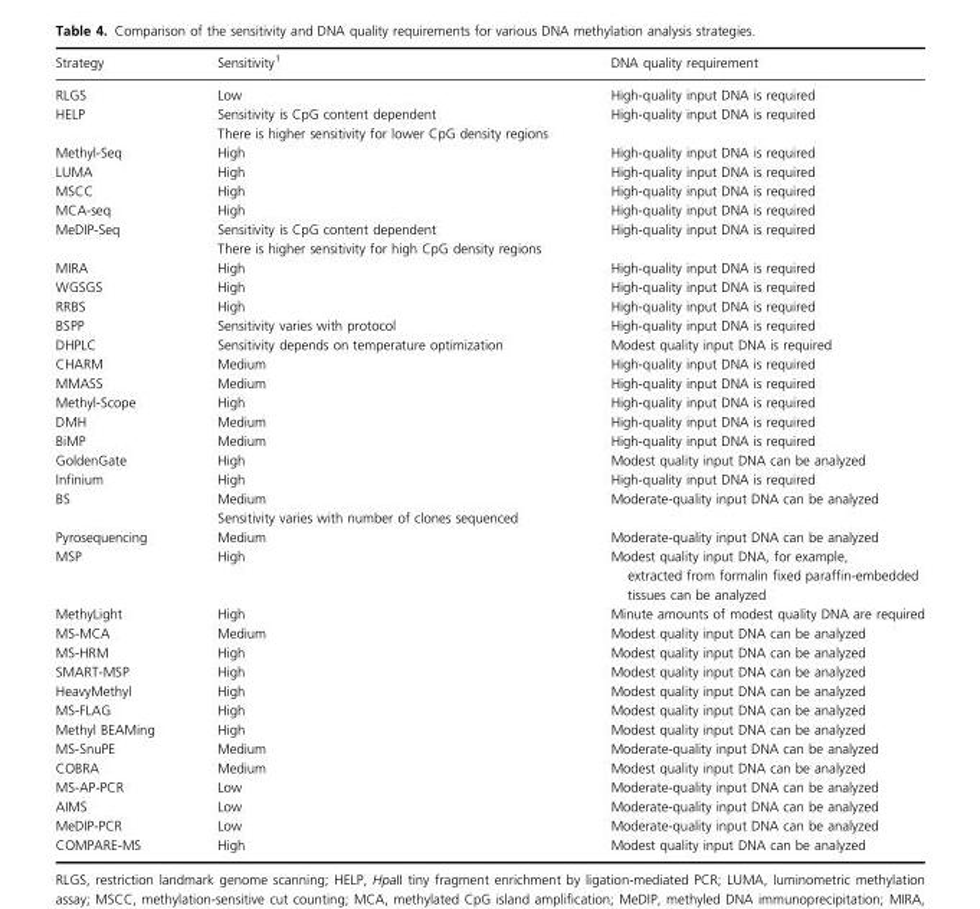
<table><thead><tr><td>Strategy</td><td>Sensitivity<sup>1</sup></td><td>DNA quality requirement</td></tr></thead><tbody><tr><td>RLGS</td><td>Low</td><td>High-quality input DNA is required</td></tr><tr><td rowspan="2">HELP</td><td>Sensitivity is CpG content dependent</td><td>High-quality input DNA is required</td></tr><tr><td>There is higher sensitivity for lower CpG density regions</td><td></td></tr><tr><td>Methyl-Seq</td><td>High</td><td>High-quality input DNA is required</td></tr><tr><td>LUMA</td><td>High</td><td>High-quality input DNA is required</td></tr><tr><td>MSCC</td><td>High</td><td>High-quality input DNA is required</td></tr><tr><td>MCA-seq</td><td>High</td><td>High-quality input DNA is required</td></tr><tr><td rowspan="2">MeDIP-Seq</td><td>Sensitivity is CpG content dependent</td><td>High-quality input DNA is required</td></tr><tr><td>There is higher sensitivity for high CpG density regions</td><td></td></tr><tr><td>MIRA</td><td>High</td><td>High-quality input DNA is required</td></tr><tr><td>WGSGS</td><td>High</td><td>High-quality input DNA is required</td></tr><tr><td>RRBS</td><td>High</td><td>High-quality input DNA is required</td></tr><tr><td>BSPP</td><td>Sensitivity varies with protocol</td><td>High-quality input DNA is required</td></tr><tr><td>DHPLC</td><td>Sensitivity depends on temperature optimization</td><td>Modest quality input DNA is required</td></tr><tr><td>CHARM</td><td>Medium</td><td>High-quality input DNA is required</td></tr><tr><td>MMASS</td><td>Medium</td><td>High-quality input DNA is required</td></tr><tr><td>Methyl-Scope</td><td>High</td><td>High-quality input DNA is required</td></tr><tr><td>DMH</td><td>Medium</td><td>High-quality input DNA is required</td></tr><tr><td>BiMP</td><td>Medium</td><td>High-quality input DNA is required</td></tr><tr><td>GoldenGate</td><td>High</td><td>Modest quality input DNA can be analyzed</td></tr><tr><td>Infinium</td><td>High</td><td>High-quality input DNA is required</td></tr><tr><td rowspan="2">BS</td><td>Medium</td><td>Moderate-quality input DNA can be analyzed</td></tr><tr><td>Sensitivity varies with number of clones sequenced</td><td></td></tr><tr><td>Pyrosequencing</td><td>Medium</td><td>Moderate-quality input DNA can be analyzed</td></tr><tr><td>MSP</td><td>High</td><td>Modest quality input DNA, for example, extracted from formalin fixed paraffin-embedded tissues can be analyzed</td></tr><tr><td>MethyLight</td><td>High</td><td>Minute amounts of modest quality DNA are required</td></tr><tr><td>MS-MCA</td><td>Medium</td><td>Modest quality input DNA can be analyzed</td></tr><tr><td>MS-HRM</td><td>High</td><td>Modest quality input DNA can be analyzed</td></tr><tr><td>SMART-MSP</td><td>High</td><td>Modest quality input DNA can be analyzed</td></tr><tr><td>HeavyMethyl</td><td>High</td><td>Modest quality input DNA can be analyzed</td></tr><tr><td>MS-FLAG</td><td>High</td><td>Modest quality input DNA can be analyzed</td></tr><tr><td>Methyl BEAMing</td><td>High</td><td>Modest quality input DNA can be analyzed</td></tr><tr><td>MS-SnuPE</td><td>Medium</td><td>Moderate-quality input DNA can be analyzed</td></tr><tr><td>COBRA</td><td>Medium</td><td>Modest quality input DNA can be analyzed</td></tr><tr><td>MS-AP-PCR</td><td>Low</td><td>Moderate-quality input DNA can be analyzed</td></tr><tr><td>AIMS</td><td>Low</td><td>Moderate-quality input DNA can be analyzed</td></tr><tr><td>MeDIP-PCR</td><td>Low</td><td>Moderate-quality input DNA can be analyzed</td></tr><tr><td>COMPARE-MS</td><td>High</td><td>Modest quality input DNA can be analyzed</td></tr></tbody></table>